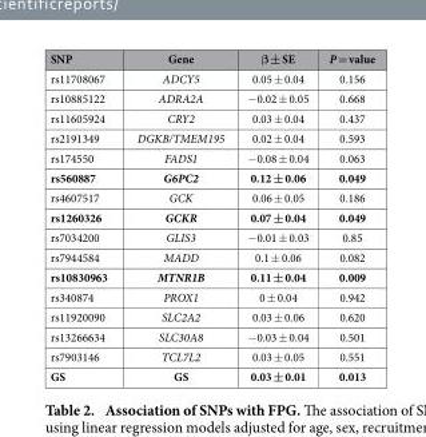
<table><thead><tr><td>SNP</td><td>Gene</td><td>β ± SE</td><td>P = value</td></tr></thead><tbody><tr><td>rs11708067</td><td>ADCY5</td><td>0.05 ± 0.04</td><td>0.156</td></tr><tr><td>rs10885122</td><td>ADRA2A</td><td>− 0.02 ± 0.05</td><td>0.668</td></tr><tr><td>rs11605924</td><td>CRY2</td><td>0.03 ± 0.04</td><td>0.437</td></tr><tr><td>rs2191349</td><td>DGKB/TMEM195</td><td>0.02 ± 0.04</td><td>0.593</td></tr><tr><td>rs174550</td><td>FADS1</td><td>− 0.08 ± 0.04</td><td>0.063</td></tr><tr><td>rs560887</td><td>G6PC2</td><td>0.12 ± 0.06</td><td>0.049</td></tr><tr><td>rs4607517</td><td>GCK</td><td>0.06 ± 0.05</td><td>0.186</td></tr><tr><td>rs1260326</td><td>GCKR</td><td>0.07 ± 0.04</td><td>0.049</td></tr><tr><td>rs7034200</td><td>GLIS3</td><td>− 0.01 ± 0.03</td><td>0.85</td></tr><tr><td>rs7944584</td><td>MADD</td><td>0.1 ± 0.06</td><td>0.082</td></tr><tr><td>rs10830963</td><td>MTNR1B</td><td>0.11 ± 0.04</td><td>0.009</td></tr><tr><td>rs340874</td><td>PROX1</td><td>0 ± 0.04</td><td>0.942</td></tr><tr><td>rs11920090</td><td>SLC2A2</td><td>0.03 ± 0.06</td><td>0.620</td></tr><tr><td>rs13266634</td><td>SLC30A8</td><td>− 0.03 ± 0.04</td><td>0.501</td></tr><tr><td>rs7903146</td><td>TCL7L2</td><td>0.03 ± 0.05</td><td>0.551</td></tr><tr><td>GS</td><td>GS</td><td>0.03 ± 0.01</td><td>0.013</td></tr></tbody></table>